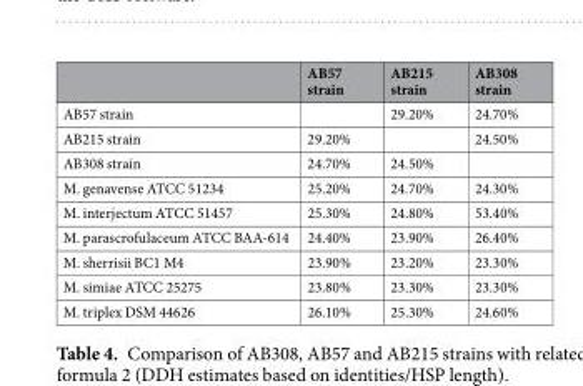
<table><thead><tr><td></td><td>AB57 strain</td><td>AB215 strain</td><td>AB308 strain</td></tr></thead><tbody><tr><td>AB57 strain</td><td></td><td>29.20%</td><td>24.70%</td></tr><tr><td>AB215 strain</td><td>29.20%</td><td></td><td>24.50%</td></tr><tr><td>AB308 strain</td><td>24.70%</td><td>24.50%</td><td></td></tr><tr><td>M. genavense ATCC 51234</td><td>25.20%</td><td>24.70%</td><td>24.30%</td></tr><tr><td>M. interjectum ATCC 51457</td><td>25.30%</td><td>24.80%</td><td>53.40%</td></tr><tr><td>M. parascrofulaceum ATCC BAA-614</td><td>24.40%</td><td>23.90%</td><td>26.40%</td></tr><tr><td>M. sherrisii BC1 M4</td><td>23.90%</td><td>23.20%</td><td>23.30%</td></tr><tr><td>M. simiae ATCC 25275</td><td>23.80%</td><td>23.30%</td><td>23.30%</td></tr><tr><td>M. triplex DSM 44626</td><td>26.10%</td><td>25.30%</td><td>24.60%</td></tr></tbody></table>